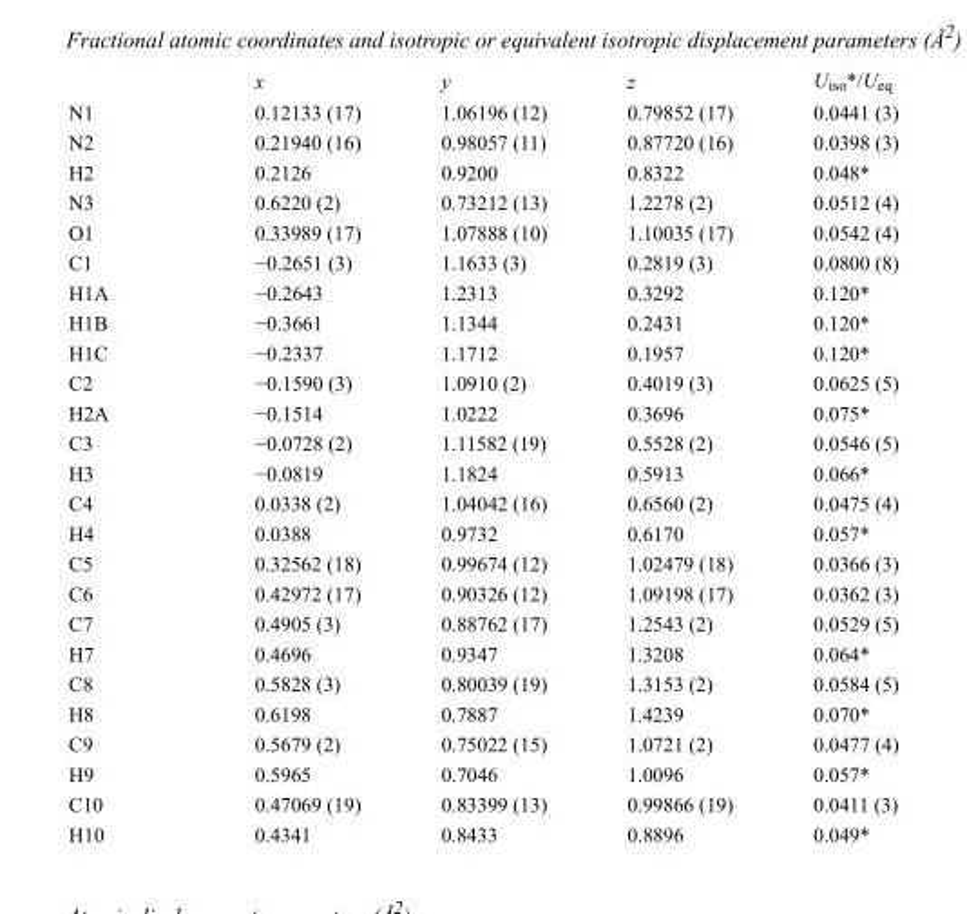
<table><thead><tr><td></td><td>x</td><td>y</td><td>z</td><td>U<sub>iso</sub>*/U<sub>eq</sub></td></tr></thead><tbody><tr><td>N1</td><td>0.12133 (17)</td><td>1.06196 (12)</td><td>0.79852 (17)</td><td>0.0441 (3)</td></tr><tr><td>N2</td><td>0.21940 (16)</td><td>0.98057 (11)</td><td>0.87720 (16)</td><td>0.0398 (3)</td></tr><tr><td>H2</td><td>0.2126</td><td>0.9200</td><td>0.8322</td><td>0.048*</td></tr><tr><td>N3</td><td>0.6220 (2)</td><td>0.73212 (13)</td><td>1.2278 (2)</td><td>0.0512 (4)</td></tr><tr><td>O1</td><td>0.33989 (17)</td><td>1.07888 (10)</td><td>1.10035 (17)</td><td>0.0542 (4)</td></tr><tr><td>C1</td><td>−0.2651 (3)</td><td>1.1633 (3)</td><td>0.2819 (3)</td><td>0.0800 (8)</td></tr><tr><td>H1A</td><td>−0.2643</td><td>1.2313</td><td>0.3292</td><td>0.120*</td></tr><tr><td>H1B</td><td>−0.3661</td><td>1.1344</td><td>0.2431</td><td>0.120*</td></tr><tr><td>H1C</td><td>−0.2337</td><td>1.1712</td><td>0.1957</td><td>0.120*</td></tr><tr><td>C2</td><td>−0.1590 (3)</td><td>1.0910 (2)</td><td>0.4019 (3)</td><td>0.0625 (5)</td></tr><tr><td>H2A</td><td>−0.1514</td><td>1.0222</td><td>0.3696</td><td>0.075*</td></tr><tr><td>C3</td><td>−0.0728 (2)</td><td>1.11582 (19)</td><td>0.5528 (2)</td><td>0.0546 (5)</td></tr><tr><td>H3</td><td>−0.0819</td><td>1.1824</td><td>0.5913</td><td>0.066*</td></tr><tr><td>C4</td><td>0.0338 (2)</td><td>1.04042 (16)</td><td>0.6560 (2)</td><td>0.0475 (4)</td></tr><tr><td>H4</td><td>0.0388</td><td>0.9732</td><td>0.6170</td><td>0.057*</td></tr><tr><td>C5</td><td>0.32562 (18)</td><td>0.99674 (12)</td><td>1.02479 (18)</td><td>0.0366 (3)</td></tr><tr><td>C6</td><td>0.42972 (17)</td><td>0.90326 (12)</td><td>1.09198 (17)</td><td>0.0362 (3)</td></tr><tr><td>C7</td><td>0.4905 (3)</td><td>0.88762 (17)</td><td>1.2543 (2)</td><td>0.0529 (5)</td></tr><tr><td>H7</td><td>0.4696</td><td>0.9347</td><td>1.3208</td><td>0.064*</td></tr><tr><td>C8</td><td>0.5828 (3)</td><td>0.80039 (19)</td><td>1.3153 (2)</td><td>0.0584 (5)</td></tr><tr><td>H8</td><td>0.6198</td><td>0.7887</td><td>1.4239</td><td>0.070*</td></tr><tr><td>C9</td><td>0.5679 (2)</td><td>0.75022 (15)</td><td>1.0721 (2)</td><td>0.0477 (4)</td></tr><tr><td>H9</td><td>0.5965</td><td>0.7046</td><td>1.0096</td><td>0.057*</td></tr><tr><td>C10</td><td>0.47069 (19)</td><td>0.83399 (13)</td><td>0.99866 (19)</td><td>0.0411 (3)</td></tr><tr><td>H10</td><td>0.4341</td><td>0.8433</td><td>0.8896</td><td>0.049*</td></tr></tbody></table>